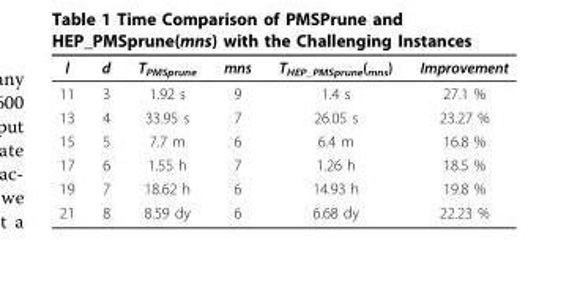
<table><thead><tr><td>l</td><td>d</td><td>T<sub>PMSprune</sub></td><td>mns</td><td>T<sub>HEP_PMSprune</sub>(<sub>mns</sub>)</td><td>Improvement</td></tr></thead><tbody><tr><td>11</td><td>3</td><td>1.92 s</td><td>9</td><td>1.4 s</td><td>27.1 %</td></tr><tr><td>13</td><td>4</td><td>33.95 s</td><td>7</td><td>26.05 s</td><td>23.27 %</td></tr><tr><td>15</td><td>5</td><td>7.7 m</td><td>6</td><td>6.4 m</td><td>16.8 %</td></tr><tr><td>17</td><td>6</td><td>1.55 h</td><td>7</td><td>1.26 h</td><td>18.5 %</td></tr><tr><td>19</td><td>7</td><td>18.62 h</td><td>6</td><td>14.93 h</td><td>19.8 %</td></tr><tr><td>21</td><td>8</td><td>8.59 dy</td><td>6</td><td>6.68 dy</td><td>22.23 %</td></tr></tbody></table>